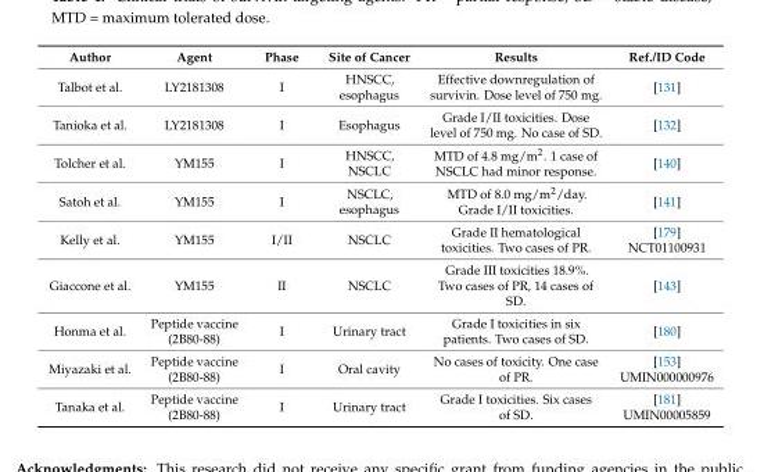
<table><thead><tr><td>Author</td><td>Agent</td><td>Phase</td><td>Site of Cancer</td><td>Results</td><td>Ref./ID Code</td></tr></thead><tbody><tr><td>Talbot et al.</td><td>LY2181308</td><td>I</td><td>HNSCC, esophagus</td><td>Effective downregulation of survivin. Dose level of 750 mg.</td><td>[131]</td></tr><tr><td>Tanioka et al.</td><td>LY2181308</td><td>I</td><td>Esophagus</td><td>Grade I/II toxicities. Dose level of 750 mg. No case of SD.</td><td>[132]</td></tr><tr><td>Tolcher et al.</td><td>YM155</td><td>I</td><td>HNSCC, NSCLC</td><td>MTD of 4.8 mg/m<sup>2</sup>. 1 case of NSCLC had minor response.</td><td>[140]</td></tr><tr><td>Satoh et al.</td><td>YM155</td><td>I</td><td>NSCLC, esophagus</td><td>MTD of 8.0 mg/m<sup>2</sup>/day. Grade I/II toxicities.</td><td>[141]</td></tr><tr><td>Kelly et al.</td><td>YM155</td><td>I/II</td><td>NSCLC</td><td>Grade II hematological toxicities. Two cases of PR.</td><td>[179] NCT01100931</td></tr><tr><td>Giaccone et al.</td><td>YM155</td><td>II</td><td>NSCLC</td><td>Grade III toxicities 18.9%. Two cases of PR, 14 cases of SD.</td><td>[143]</td></tr><tr><td>Honma et al.</td><td>Peptide vaccine (2B80-88)</td><td>I</td><td>Urinary tract</td><td>Grade I toxicities in six patients. Two cases of SD.</td><td>[180]</td></tr><tr><td>Miyazaki et al.</td><td>Peptide vaccine (2B80-88)</td><td>I</td><td>Oral cavity</td><td>No cases of toxicity. One case of PR.</td><td>[153] UMIN000000976</td></tr><tr><td>Tanaka et al.</td><td>Peptide vaccine (2B80-88)</td><td>I</td><td>Urinary tract</td><td>Grade I toxicities. Six cases of SD.</td><td>[181] UMIN00005859</td></tr></tbody></table>